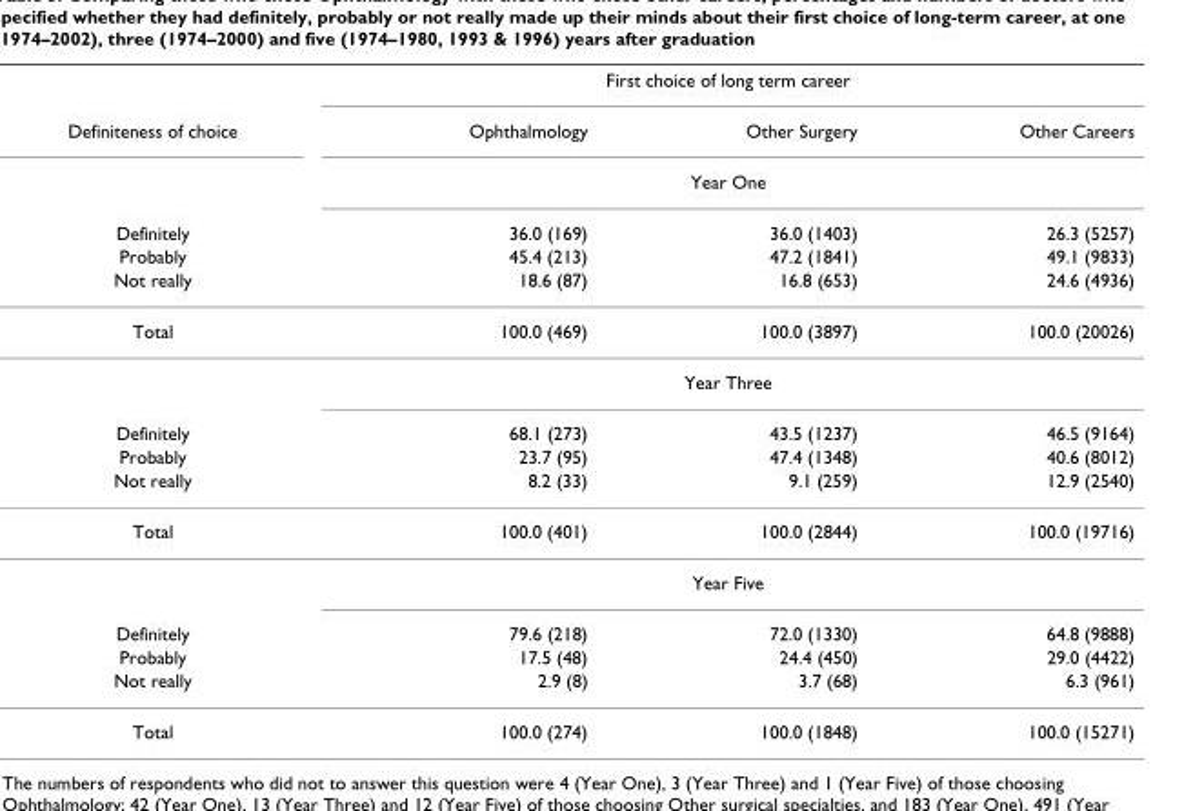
<table><thead><tr><td rowspan="6">Definiteness of choice Definitely Probably Not really</td><td colspan="3">First choice of long term career</td></tr><tr><td>Ophthalmology</td><td>Other Surgery</td><td>Other Careers</td></tr><tr><td colspan="3">Year One</td></tr><tr><td rowspan="3">36.0 (169) 45.4 (213) 18.6 (87)</td><td rowspan="3">36.0 (1403) 47.2 (1841) 16.8 (653)</td><td rowspan="3">26.3 (5257) 49.1 (9833) 24.6 (4936)</td></tr><tr></tr><tr></tr></thead><tbody><tr><td rowspan="2">Total</td><td>100.0 (469)</td><td>100.0 (3897)</td><td>100.0 (20026)</td></tr><tr><td colspan="3">Year Three</td></tr><tr><td>Definitely</td><td>68.1 (273)</td><td>43.5 (1237)</td><td>46.5 (9164)</td></tr><tr><td>Probably</td><td>23.7 (95)</td><td>47.4 (1348)</td><td>40.6 (8012)</td></tr><tr><td>Not really</td><td>8.2 (33)</td><td>9.1 (259)</td><td>12.9 (2540)</td></tr><tr><td rowspan="2">Total</td><td>100.0 (401)</td><td>100.0 (2844)</td><td>100.0 (19716)</td></tr><tr><td colspan="3">Year Five</td></tr><tr><td>Definitely</td><td>79.6 (218)</td><td>72.0 (1330)</td><td>64.8 (9888)</td></tr><tr><td>Probably</td><td>17.5 (48)</td><td>24.4 (450)</td><td>29.0 (4422)</td></tr><tr><td>Not really</td><td>2.9 (8)</td><td>3.7 (68)</td><td>6.3 (961)</td></tr><tr><td>Total</td><td>100.0 (274)</td><td>100.0 (1848)</td><td>100.0 (15271)</td></tr></tbody></table>